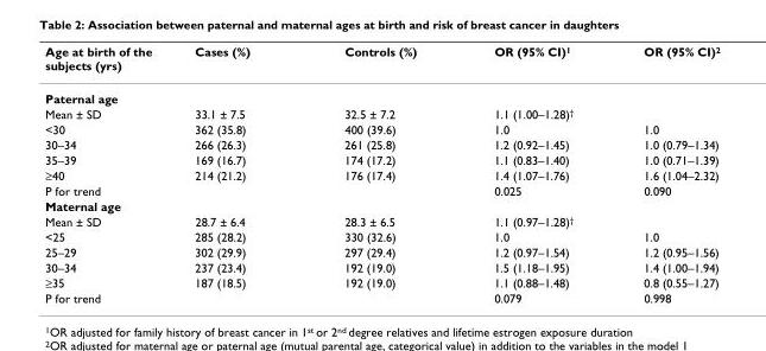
<table><thead><tr><td>Age at birth of the subjects (yrs)</td><td>Cases (%)</td><td>Controls (%)</td><td>OR (95% CI)1</td><td>OR (95% CI)2</td></tr></thead><tbody><tr><td colspan="5">Paternal age</td></tr><tr><td>Mean ± SD</td><td>33.1 ± 7.5</td><td>32.5 ± 7.2</td><td>1.1 (1.00–1.28)†</td><td></td></tr><tr><td>&lt;30</td><td>362 (35.8)</td><td>400 (39.6)</td><td>1.0</td><td>1.0</td></tr><tr><td>30–34</td><td>266 (26.3)</td><td>261 (25.8)</td><td>1.2 (0.92–1.45)</td><td>1.0 (0.79–1.34)</td></tr><tr><td>35–39</td><td>169 (16.7)</td><td>174 (17.2)</td><td>1.1 (0.83–1.40)</td><td>1.0 (0.71–1.39)</td></tr><tr><td>≥40</td><td>214 (21.2)</td><td>176 (17.4)</td><td>1.4 (1.07–1.76)</td><td>1.6 (1.04–2.32)</td></tr><tr><td>P for trend</td><td></td><td></td><td>0.025</td><td>0.090</td></tr><tr><td colspan="5">Maternal age</td></tr><tr><td>Mean ± SD</td><td>28.7 ± 6.4</td><td>28.3 ± 6.5</td><td>1.1 (0.97–1.28)†</td><td></td></tr><tr><td>&lt;25</td><td>285 (28.2)</td><td>330 (32.6)</td><td>1.0</td><td>1.0</td></tr><tr><td>25–29</td><td>302 (29.9)</td><td>297 (29.4)</td><td>1.2 (0.97–1.54)</td><td>1.2 (0.95–1.56)</td></tr><tr><td>30–34</td><td>237 (23.4)</td><td>192 (19.0)</td><td>1.5 (1.18–1.95)</td><td>1.4 (1.00–1.94)</td></tr><tr><td>≥35</td><td>187 (18.5)</td><td>192 (19.0)</td><td>1.1 (0.88–1.48)</td><td>0.8 (0.55–1.27)</td></tr><tr><td>P for trend</td><td></td><td></td><td>0.079</td><td>0.998</td></tr></tbody></table>